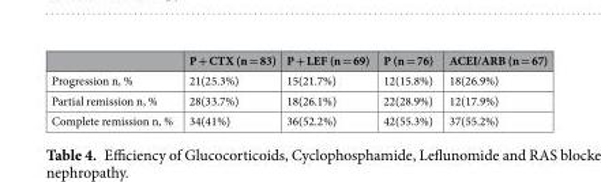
<table><thead><tr><td></td><td>P + CTX (n = 83)</td><td>P + LEF (n = 69)</td><td>P (n = 76)</td><td>ACEI/ARB (n = 67)</td></tr></thead><tbody><tr><td>Progression n, %</td><td>21(25.3%)</td><td>15(21.7%)</td><td>12(15.8%)</td><td>18(26.9%)</td></tr><tr><td>Partial remission n, %</td><td>28(33.7%)</td><td>18(26.1%)</td><td>22(28.9%)</td><td>12(17.9%)</td></tr><tr><td>Complete remission n, %</td><td>34(41%)</td><td>36(52.2%)</td><td>42(55.3%)</td><td>37(55.2%)</td></tr></tbody></table>